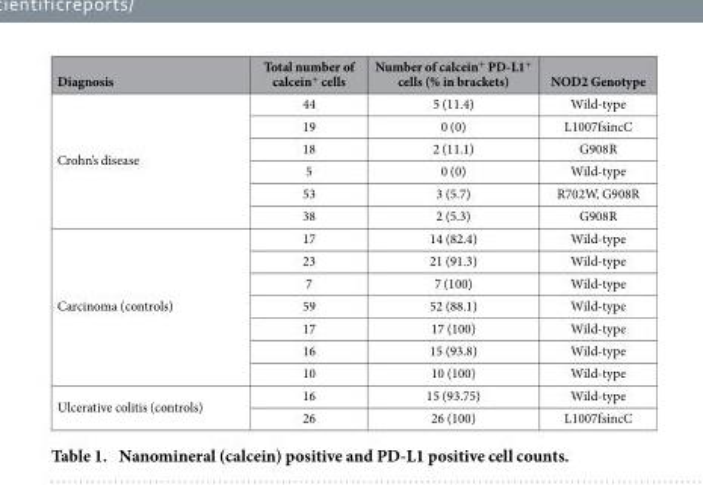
<table><thead><tr><td>Diagnosis</td><td>Total number of calcein<sup>+</sup> cells</td><td>Number of calcein<sup>+</sup> PD-L1<sup>+</sup> cells (% in brackets)</td><td>NOD2 Genotype</td></tr></thead><tbody><tr><td rowspan="6">Crohn’s disease</td><td>44</td><td>5 (11.4)</td><td>Wild-type</td></tr><tr><td>19</td><td>0 (0)</td><td>L1007fsincC</td></tr><tr><td>18</td><td>2 (11.1)</td><td>G908R</td></tr><tr><td>5</td><td>0 (0)</td><td>Wild-type</td></tr><tr><td>53</td><td>3 (5.7)</td><td>R702W, G908R</td></tr><tr><td>38</td><td>2 (5.3)</td><td>G908R</td></tr><tr><td rowspan="7">Carcinoma (controls)</td><td>17</td><td>14 (82.4)</td><td>Wild-type</td></tr><tr><td>23</td><td>21 (91.3)</td><td>Wild-type</td></tr><tr><td>7</td><td>7 (100)</td><td>Wild-type</td></tr><tr><td>59</td><td>52 (88.1)</td><td>Wild-type</td></tr><tr><td>17</td><td>17 (100)</td><td>Wild-type</td></tr><tr><td>16</td><td>15 (93.8)</td><td>Wild-type</td></tr><tr><td>10</td><td>10 (100)</td><td>Wild-type</td></tr><tr><td rowspan="2">Ulcerative colitis (controls)</td><td>16</td><td>15 (93.75)</td><td>Wild-type</td></tr><tr><td>26</td><td>26 (100)</td><td>L1007fsincC</td></tr></tbody></table>